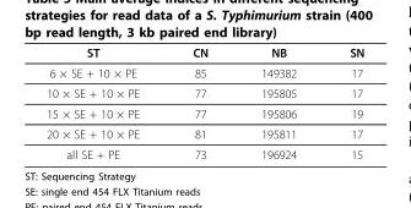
<table><thead><tr><td>ST</td><td>CN</td><td>NB</td><td>SN</td></tr></thead><tbody><tr><td>6 × SE + 10 × PE</td><td>85</td><td>149382</td><td>17</td></tr><tr><td>10 × SE + 10 × PE</td><td>77</td><td>195805</td><td>17</td></tr><tr><td>15 × SE + 10 × PE</td><td>77</td><td>195806</td><td>19</td></tr><tr><td>20 × SE + 10 × PE</td><td>81</td><td>195811</td><td>17</td></tr><tr><td>all SE + PE</td><td>73</td><td>196924</td><td>15</td></tr></tbody></table>